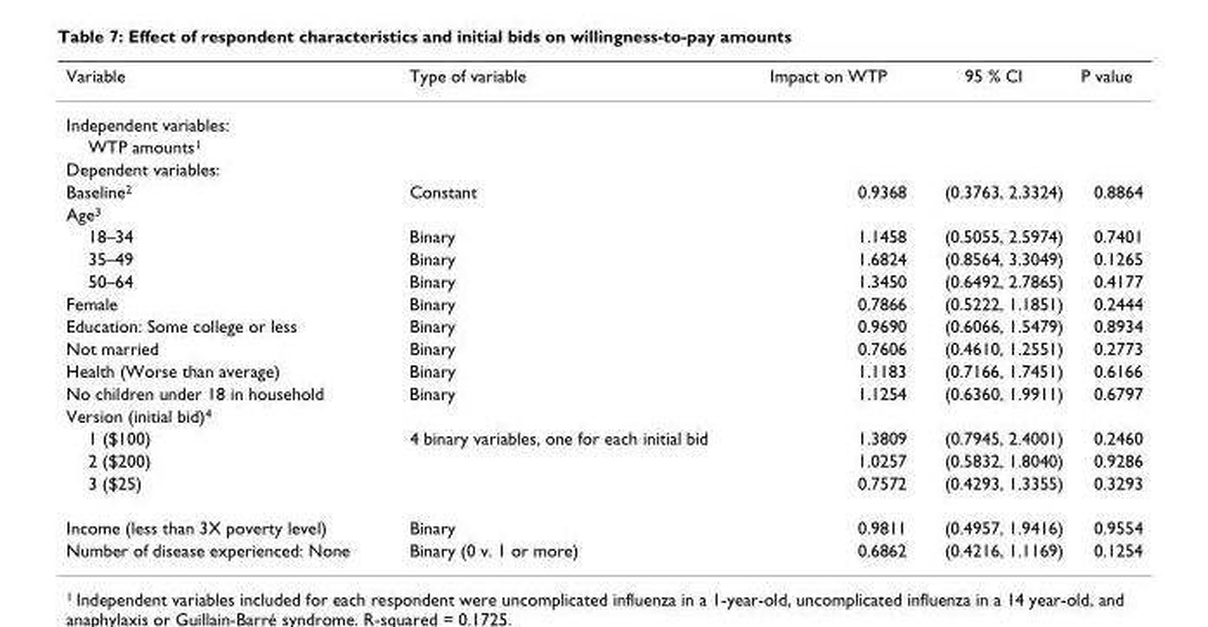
<table><thead><tr><td>Variable</td><td>Type of variable</td><td>Impact on WTP</td><td>95 % CI</td><td>P value</td></tr></thead><tbody><tr><td colspan="5">Independent variables:</td></tr><tr><td colspan="5">WTP amounts<sup>1</sup></td></tr><tr><td colspan="5">Dependent variables:</td></tr><tr><td>Baseline<sup>2</sup></td><td>Constant</td><td>0.9368</td><td>(0.3763, 2.3324)</td><td>0.8864</td></tr><tr><td colspan="5">Age<sup>3</sup></td></tr><tr><td>18–34</td><td>Binary</td><td>1.1458</td><td>(0.5055, 2.5974)</td><td>0.7401</td></tr><tr><td>35–49</td><td>Binary</td><td>1.6824</td><td>(0.8564, 3.3049)</td><td>0.1265</td></tr><tr><td>50–64</td><td>Binary</td><td>1.3450</td><td>(0.6492, 2.7865)</td><td>0.4177</td></tr><tr><td>Female</td><td>Binary</td><td>0.7866</td><td>(0.5222, 1.1851)</td><td>0.2444</td></tr><tr><td>Education: Some college or less</td><td>Binary</td><td>0.9690</td><td>(0.6066, 1.5479)</td><td>0.8934</td></tr><tr><td>Not married</td><td>Binary</td><td>0.7606</td><td>(0.4610, 1.2551)</td><td>0.2773</td></tr><tr><td>Health (Worse than average)</td><td>Binary</td><td>1.1183</td><td>(0.7166, 1.7451)</td><td>0.6166</td></tr><tr><td>No children under 18 in household</td><td>Binary</td><td>1.1254</td><td>(0.6360, 1.9911)</td><td>0.6797</td></tr><tr><td colspan="5">Version (initial bid)<sup>4</sup></td></tr><tr><td>1 ($100)</td><td>4 binary variables, one for each initial bid</td><td>1.3809</td><td>(0.7945, 2.4001)</td><td>0.2460</td></tr><tr><td>2 ($200)</td><td></td><td>1.0257</td><td>(0.5832, 1.8040)</td><td>0.9286</td></tr><tr><td>3 ($25)</td><td></td><td>0.7572</td><td>(0.4293, 1.3355)</td><td>0.3293</td></tr><tr><td>Income (less than 3X poverty level)</td><td>Binary</td><td>0.9811</td><td>(0.4957, 1.9416)</td><td>0.9554</td></tr><tr><td>Number of disease experienced: None</td><td>Binary (0 v. 1 or more)</td><td>0.6862</td><td>(0.4216, 1.1169)</td><td>0.1254</td></tr></tbody></table>